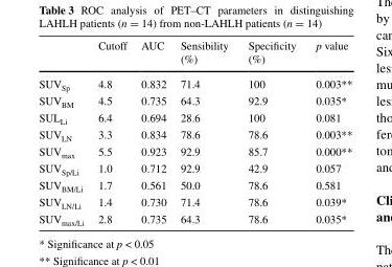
<table><thead><tr><td></td><td>Cutoff</td><td>AUC</td><td>Sensibility (%)</td><td>Specificity (%)</td><td>p value</td></tr></thead><tbody><tr><td>SUV<sub>Sp</sub></td><td>4.8</td><td>0.832</td><td>71.4</td><td>100</td><td>0.003**</td></tr><tr><td>SUV<sub>BM</sub></td><td>4.5</td><td>0.735</td><td>64.3</td><td>92.9</td><td>0.035*</td></tr><tr><td>SUL<sub>Li</sub></td><td>6.4</td><td>0.694</td><td>28.6</td><td>100</td><td>0.081</td></tr><tr><td>SUV<sub>LN</sub></td><td>3.3</td><td>0.834</td><td>78.6</td><td>78.6</td><td>0.003**</td></tr><tr><td>SUV<sub>max</sub></td><td>5.5</td><td>0.923</td><td>92.9</td><td>85.7</td><td>0.000**</td></tr><tr><td>SUV<sub>Sp/Li</sub></td><td>1.0</td><td>0.712</td><td>92.9</td><td>42.9</td><td>0.057</td></tr><tr><td>SUV<sub>BM/Li</sub></td><td>1.7</td><td>0.561</td><td>50.0</td><td>78.6</td><td>0.581</td></tr><tr><td>SUV<sub>LN/Li</sub></td><td>1.4</td><td>0.730</td><td>71.4</td><td>78.6</td><td>0.039*</td></tr><tr><td>SUV<sub>max/Li</sub></td><td>2.8</td><td>0.735</td><td>64.3</td><td>78.6</td><td>0.035*</td></tr></tbody></table>